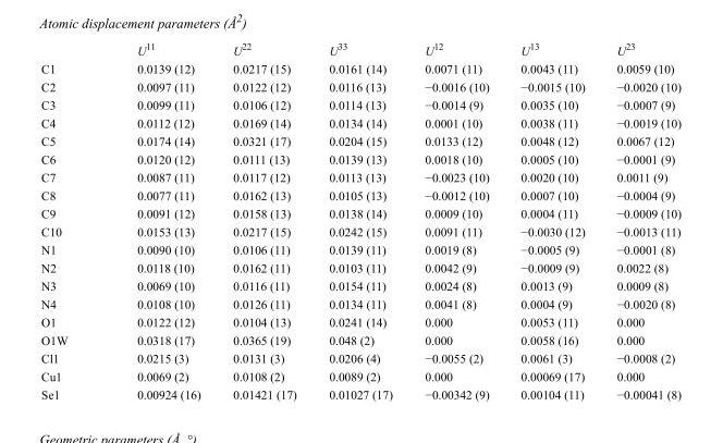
<table><thead><tr><td></td><td>U<sup>11</sup></td><td>U<sup>22</sup></td><td>U<sup>33</sup></td><td>U<sup>12</sup></td><td>U<sup>13</sup></td><td>U<sup>23</sup></td></tr></thead><tbody><tr><td>C1</td><td>0.0139 (12)</td><td>0.0217 (15)</td><td>0.0161 (14)</td><td>0.0071 (11)</td><td>0.0043 (11)</td><td>0.0059 (10)</td></tr><tr><td>C2</td><td>0.0097 (11)</td><td>0.0122 (12)</td><td>0.0116 (13)</td><td>−0.0016 (10)</td><td>−0.0015 (10)</td><td>−0.0020 (10)</td></tr><tr><td>C3</td><td>0.0099 (11)</td><td>0.0106 (12)</td><td>0.0114 (13)</td><td>−0.0014 (9)</td><td>0.0035 (10)</td><td>−0.0007 (9)</td></tr><tr><td>C4</td><td>0.0112 (12)</td><td>0.0169 (14)</td><td>0.0134 (14)</td><td>0.0001 (10)</td><td>0.0038 (11)</td><td>−0.0019 (10)</td></tr><tr><td>C5</td><td>0.0174 (14)</td><td>0.0321 (17)</td><td>0.0204 (15)</td><td>0.0133 (12)</td><td>0.0048 (12)</td><td>0.0067 (12)</td></tr><tr><td>C6</td><td>0.0120 (12)</td><td>0.0111 (13)</td><td>0.0139 (13)</td><td>0.0018 (10)</td><td>0.0005 (10)</td><td>−0.0001 (9)</td></tr><tr><td>C7</td><td>0.0087 (11)</td><td>0.0117 (12)</td><td>0.0113 (13)</td><td>−0.0023 (10)</td><td>0.0020 (10)</td><td>0.0011 (9)</td></tr><tr><td>C8</td><td>0.0077 (11)</td><td>0.0162 (13)</td><td>0.0105 (13)</td><td>−0.0012 (10)</td><td>0.0007 (10)</td><td>−0.0004 (9)</td></tr><tr><td>C9</td><td>0.0091 (12)</td><td>0.0158 (13)</td><td>0.0138 (14)</td><td>0.0009 (10)</td><td>0.0004 (11)</td><td>−0.0009 (10)</td></tr><tr><td>C10</td><td>0.0153 (13)</td><td>0.0217 (15)</td><td>0.0242 (15)</td><td>0.0091 (11)</td><td>−0.0030 (12)</td><td>−0.0013 (11)</td></tr><tr><td>N1</td><td>0.0090 (10)</td><td>0.0106 (11)</td><td>0.0139 (11)</td><td>0.0019 (8)</td><td>−0.0005 (9)</td><td>−0.0001 (8)</td></tr><tr><td>N2</td><td>0.0118 (10)</td><td>0.0162 (11)</td><td>0.0103 (11)</td><td>0.0042 (9)</td><td>−0.0009 (9)</td><td>0.0022 (8)</td></tr><tr><td>N3</td><td>0.0069 (10)</td><td>0.0116 (11)</td><td>0.0154 (11)</td><td>0.0024 (8)</td><td>0.0013 (9)</td><td>0.0009 (8)</td></tr><tr><td>N4</td><td>0.0108 (10)</td><td>0.0126 (11)</td><td>0.0134 (11)</td><td>0.0041 (8)</td><td>0.0004 (9)</td><td>−0.0020 (8)</td></tr><tr><td>O1</td><td>0.0122 (12)</td><td>0.0104 (13)</td><td>0.0241 (14)</td><td>0.000</td><td>0.0053 (11)</td><td>0.000</td></tr><tr><td>O1W</td><td>0.0318 (17)</td><td>0.0365 (19)</td><td>0.048 (2)</td><td>0.000</td><td>0.0058 (16)</td><td>0.000</td></tr><tr><td>Cl1</td><td>0.0215 (3)</td><td>0.0131 (3)</td><td>0.0206 (4)</td><td>−0.0055 (2)</td><td>0.0061 (3)</td><td>−0.0008 (2)</td></tr><tr><td>Cu1</td><td>0.0069 (2)</td><td>0.0108 (2)</td><td>0.0089 (2)</td><td>0.000</td><td>0.00069 (17)</td><td>0.000</td></tr><tr><td>Se1</td><td>0.00924 (16)</td><td>0.01421 (17)</td><td>0.01027 (17)</td><td>−0.00342 (9)</td><td>0.00104 (11)</td><td>−0.00041 (8)</td></tr></tbody></table>